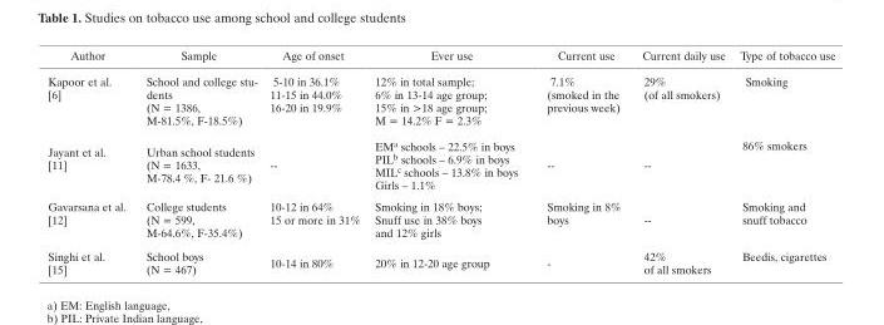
<table><thead><tr><td>Author</td><td>Sample</td><td>Age of onset</td><td>Ever use</td><td>Current use</td><td>Current daily use</td><td>Type of tobacco use</td></tr></thead><tbody><tr><td>Kapoor et al. [6]</td><td>School and college stu- dents (N = 1386, M-81.5%, F-18.5%)</td><td>5-10 in 36.1% 11-15 in 44.0% 16-20 in 19.9%</td><td>12% in total sample; 6% in 13-14 age group; 15% in &gt;18 age group; M = 14.2% F = 2.3%</td><td>7.1% (smoked in the previous week)</td><td>29% (of all smokers)</td><td>Smoking</td></tr><tr><td>Jayant et al. [11]</td><td>Urban school students (N = 1633, M-78.4 %, F- 21.6 %)</td><td>--</td><td>EM<sup>a</sup> schools – 22.5% in boys PIL<sup>b</sup> schools – 6.9% in boys MIL<sup>c</sup> schools – 13.8% in boys Girls – 1.1%</td><td>--</td><td>--</td><td>86% smokers</td></tr><tr><td>Gavarsana et al. [12]</td><td>College students (N = 599, M-64.6%, F-35.4%)</td><td>10-12 in 64% 15 or more in 31%</td><td>Smoking in 18% boys; Snuff use in 38% boys and 12% girls</td><td>Smoking in 8% boys</td><td>--</td><td>Smoking and snuff tobacco</td></tr><tr><td>Singhi et al. [15]</td><td>School boys (N = 467)</td><td>10-14 in 80%</td><td>20% in 12-20 age group</td><td>-</td><td>42% of all smokers</td><td>Beedis, cigarettes</td></tr></tbody></table>